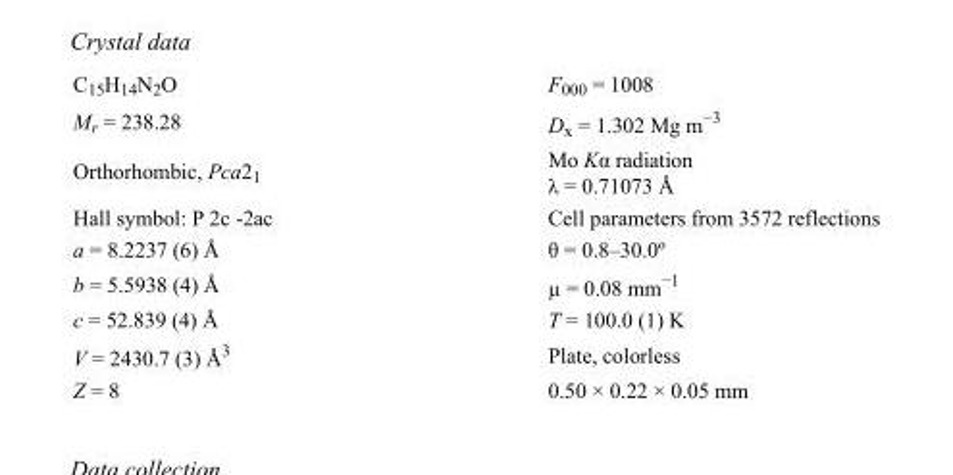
<table><tbody><tr><td>C<sub>15</sub>H<sub>14</sub>N<sub>2</sub>O</td><td>F000 = 1008</td></tr><tr><td>M<sub>r</sub> = 238.28</td><td>D<sub>x</sub> = 1.302 Mg m<sup>−3</sup></td></tr><tr><td>Orthorhombic, Pca2<sub>1</sub></td><td>Mo Kα radiation λ = 0.71073 Å</td></tr><tr><td>Hall symbol: P 2c -2ac</td><td>Cell parameters from 3572 reflections</td></tr><tr><td>a = 8.2237 (6) Å</td><td>θ = 0.8–30.0º</td></tr><tr><td>b = 5.5938 (4) Å</td><td>µ = 0.08 mm<sup>−1</sup></td></tr><tr><td>c = 52.839 (4) Å</td><td>T = 100.0 (1) K</td></tr><tr><td>V = 2430.7 (3) Å<sup>3</sup></td><td>Plate, colorless</td></tr><tr><td>Z = 8</td><td>0.50 × 0.22 × 0.05 mm</td></tr></tbody></table>